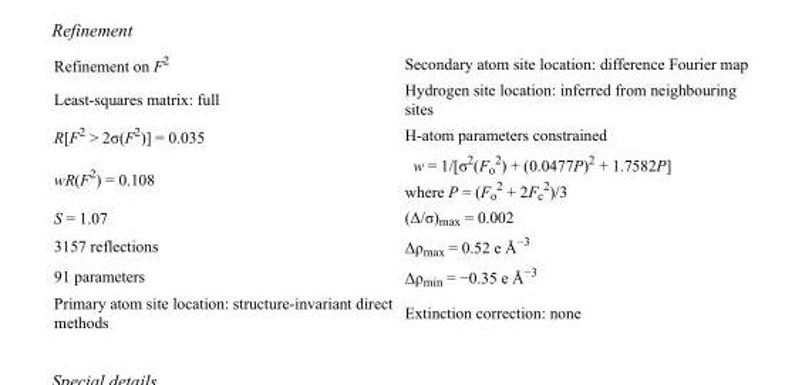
<table><tbody><tr><td>Refinement on F<sup>2</sup></td><td>Secondary atom site location: difference Fourier map</td></tr><tr><td>Least-squares matrix: full</td><td>Hydrogen site location: inferred from neighbouring sites</td></tr><tr><td>R[F<sup>2</sup> &gt; 2σ(F<sup>2</sup>)] = 0.035</td><td>H-atom parameters constrained</td></tr><tr><td>wR(F<sup>2</sup>) = 0.108</td><td>w = 1/[σ<sup>2</sup>(F<sub>o</sub> <sup>2</sup>) + (0.0477P)<sup>2</sup> + 1.7582P] where P = (F<sub>o</sub> <sup>2</sup> + 2F<sub>c</sub> <sup>2</sup>)/3</td></tr><tr><td>S = 1.07</td><td>(Δ/σ)<sub>max</sub> = 0.002</td></tr><tr><td>3157 reflections</td><td>Δρ<sub>max</sub> = 0.52 e Å<sup>−3</sup></td></tr><tr><td>91 parameters</td><td>Δρ<sub>min</sub> = −0.35 e Å<sup>−3</sup></td></tr><tr><td>Primary atom site location: structure-invariant direct methods</td><td>Extinction correction: none</td></tr></tbody></table>